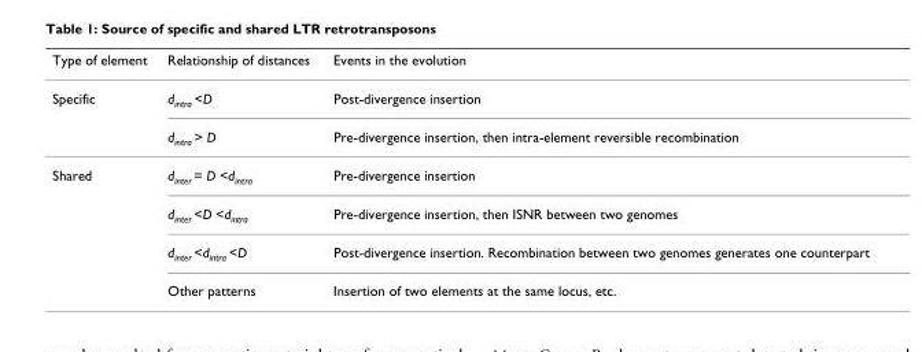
<table><thead><tr><td>Type of element</td><td>Relationship of distances</td><td>Events in the evolution</td></tr></thead><tbody><tr><td rowspan="2">Specific</td><td>d<sub>intra</sub> &lt;D</td><td>Post-divergence insertion</td></tr><tr><td>d<sub>intra</sub> &gt; D</td><td>Pre-divergence insertion, then intra-element reversible recombination</td></tr><tr><td rowspan="4">Shared</td><td>d<sub>inter</sub> = D &lt;d<sub>intra</sub></td><td>Pre-divergence insertion</td></tr><tr><td>d<sub>inter</sub> &lt;D &lt;d<sub>intra</sub></td><td>Pre-divergence insertion, then ISNR between two genomes</td></tr><tr><td>d<sub>inter</sub> &lt;d<sub>intra</sub> &lt;D</td><td>Post-divergence insertion. Recombination between two genomes generates one counterpart</td></tr><tr><td>Other patterns</td><td>Insertion of two elements at the same locus, etc.</td></tr></tbody></table>